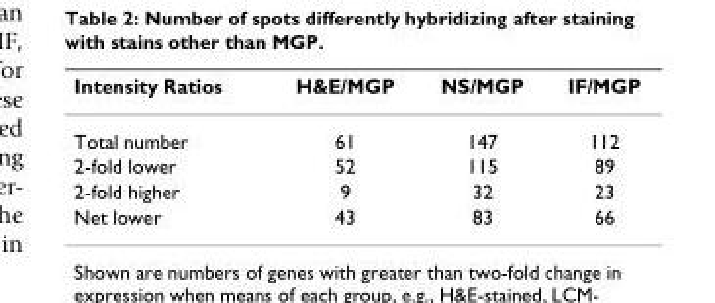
<table><thead><tr><td>Intensity Ratios</td><td>H&amp;E/MGP</td><td>NS/MGP</td><td>IF/MGP</td></tr></thead><tbody><tr><td>Total number</td><td>61</td><td>147</td><td>112</td></tr><tr><td>2-fold lower</td><td>52</td><td>115</td><td>89</td></tr><tr><td>2-fold higher</td><td>9</td><td>32</td><td>23</td></tr><tr><td>Net lower</td><td>43</td><td>83</td><td>66</td></tr></tbody></table>